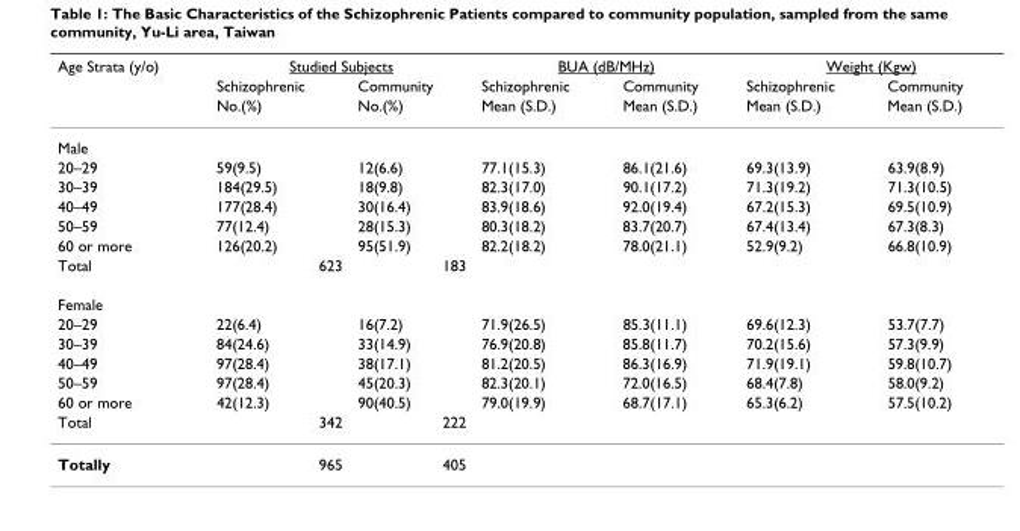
<table><thead><tr><td rowspan="3">Age Strata (y/o)</td><td colspan="2">Studied Subjects</td><td colspan="2">BUA (dB/MHz)</td><td colspan="2">Weight (Kgw)</td></tr><tr><td rowspan="2">Schizophrenic No.(%)</td><td rowspan="2">Community No.(%)</td><td rowspan="2">Schizophrenic Mean (S.D.)</td><td rowspan="2">Community Mean (S.D.)</td><td rowspan="2">Schizophrenic Mean (S.D.)</td><td rowspan="2">Community Mean (S.D.)</td></tr><tr></tr></thead><tbody><tr><td colspan="7">Male</td></tr><tr><td>20–29</td><td>59(9.5)</td><td>12(6.6)</td><td>77.1(15.3)</td><td>86.1(21.6)</td><td>69.3(13.9)</td><td>63.9(8.9)</td></tr><tr><td>30–39</td><td>184(29.5)</td><td>18(9.8)</td><td>82.3(17.0)</td><td>90.1(17.2)</td><td>71.3(19.2)</td><td>71.3(10.5)</td></tr><tr><td>40–49</td><td>177(28.4)</td><td>30(16.4)</td><td>83.9(18.6)</td><td>92.0(19.4)</td><td>67.2(15.3)</td><td>69.5(10.9)</td></tr><tr><td>50–59</td><td>77(12.4)</td><td>28(15.3)</td><td>80.3(18.2)</td><td>83.7(20.7)</td><td>67.4(13.4)</td><td>67.3(8.3)</td></tr><tr><td>60 or more</td><td>126(20.2)</td><td>95(51.9)</td><td>82.2(18.2)</td><td>78.0(21.1)</td><td>52.9(9.2)</td><td>66.8(10.9)</td></tr><tr><td>Total</td><td>623</td><td>183</td><td></td><td></td><td></td><td></td></tr><tr><td colspan="7">Female</td></tr><tr><td>20–29</td><td>22(6.4)</td><td>16(7.2)</td><td>71.9(26.5)</td><td>85.3(11.1)</td><td>69.6(12.3)</td><td>53.7(7.7)</td></tr><tr><td>30–39</td><td>84(24.6)</td><td>33(14.9)</td><td>76.9(20.8)</td><td>85.8(11.7)</td><td>70.2(15.6)</td><td>57.3(9.9)</td></tr><tr><td>40–49</td><td>97(28.4)</td><td>38(17.1)</td><td>81.2(20.5)</td><td>86.3(16.9)</td><td>71.9(19.1)</td><td>59.8(10.7)</td></tr><tr><td>50–59</td><td>97(28.4)</td><td>45(20.3)</td><td>82.3(20.1)</td><td>72.0(16.5)</td><td>68.4(7.8)</td><td>58.0(9.2)</td></tr><tr><td>60 or more</td><td>42(12.3)</td><td>90(40.5)</td><td>79.0(19.9)</td><td>68.7(17.1)</td><td>65.3(6.2)</td><td>57.5(10.2)</td></tr><tr><td>Total</td><td>342</td><td>222</td><td></td><td></td><td></td><td></td></tr><tr><td>Totally</td><td>965</td><td>405</td><td></td><td></td><td></td><td></td></tr></tbody></table>